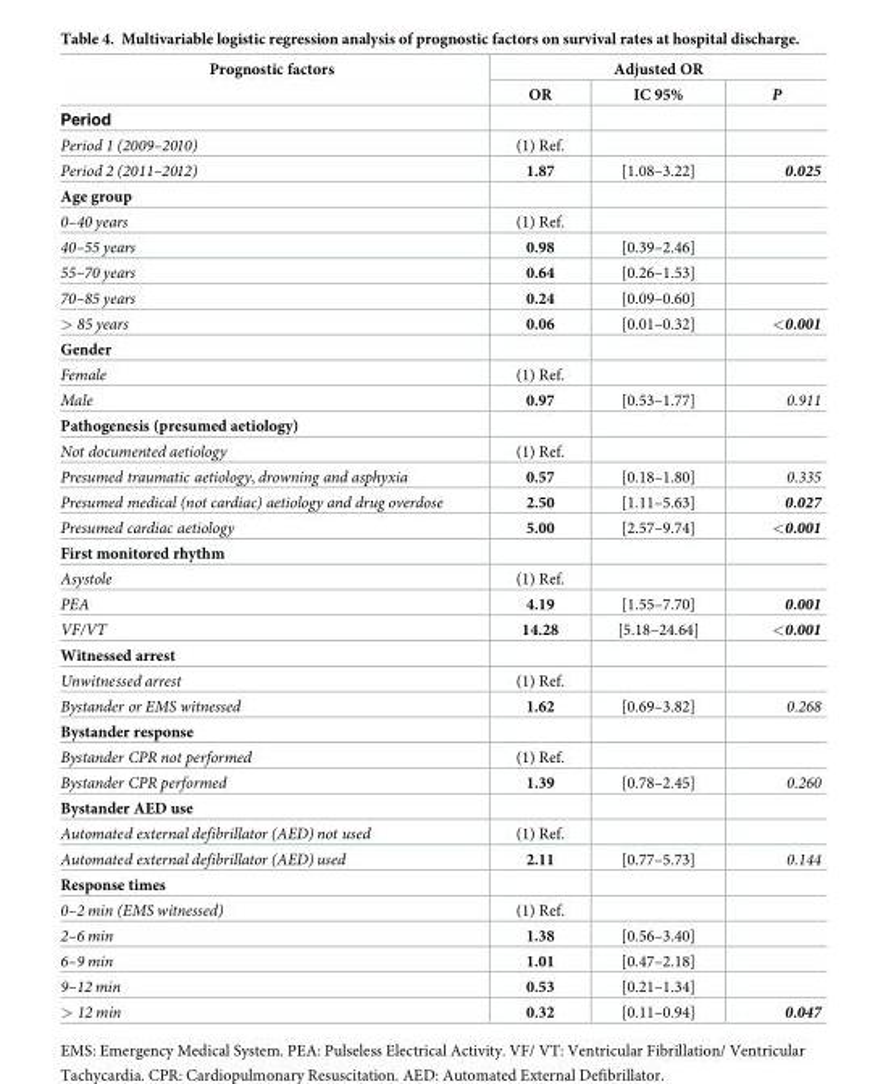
<table><thead><tr><td rowspan="3">Prognostic factors Period</td><td colspan="3">Adjusted OR</td></tr><tr><td rowspan="2">OR</td><td rowspan="2">IC 95%</td><td rowspan="2">P</td></tr><tr></tr></thead><tbody><tr><td>Period 1 (2009–2010)</td><td>(1) Ref.</td><td></td><td></td></tr><tr><td>Period 2 (2011–2012)</td><td>1.87</td><td>[1.08–3.22]</td><td>0.025</td></tr><tr><td colspan="4">Age group</td></tr><tr><td>0–40 years</td><td>(1) Ref.</td><td></td><td></td></tr><tr><td>40–55 years</td><td>0.98</td><td>[0.39–2.46]</td><td></td></tr><tr><td>55–70 years</td><td>0.64</td><td>[0.26–1.53]</td><td></td></tr><tr><td>70–85 years</td><td>0.24</td><td>[0.09–0.60]</td><td></td></tr><tr><td>&gt; 85 years</td><td>0.06</td><td>[0.01–0.32]</td><td>&lt;0.001</td></tr><tr><td colspan="4">Gender</td></tr><tr><td>Female</td><td>(1) Ref.</td><td></td><td></td></tr><tr><td>Male</td><td>0.97</td><td>[0.53–1.77]</td><td>0.911</td></tr><tr><td colspan="4">Pathogenesis (presumed aetiology)</td></tr><tr><td>Not documented aetiology</td><td>(1) Ref.</td><td></td><td></td></tr><tr><td>Presumed traumatic aetiology, drowning and asphyxia</td><td>0.57</td><td>[0.18–1.80]</td><td>0.335</td></tr><tr><td>Presumed medical (not cardiac) aetiology and drug overdose</td><td>2.50</td><td>[1.11–5.63]</td><td>0.027</td></tr><tr><td>Presumed cardiac aetiology</td><td>5.00</td><td>[2.57–9.74]</td><td>&lt;0.001</td></tr><tr><td colspan="4">First monitored rhythm</td></tr><tr><td>Asystole</td><td>(1) Ref.</td><td></td><td></td></tr><tr><td>PEA</td><td>4.19</td><td>[1.55–7.70]</td><td>0.001</td></tr><tr><td>VF/VT</td><td>14.28</td><td>[5.18–24.64]</td><td>&lt;0.001</td></tr><tr><td colspan="4">Witnessed arrest</td></tr><tr><td>Unwitnessed arrest</td><td>(1) Ref.</td><td></td><td></td></tr><tr><td>Bystander or EMS witnessed</td><td>1.62</td><td>[0.69–3.82]</td><td>0.268</td></tr><tr><td colspan="4">Bystander response</td></tr><tr><td>Bystander CPR not performed</td><td>(1) Ref.</td><td></td><td></td></tr><tr><td>Bystander CPR performed</td><td>1.39</td><td>[0.78–2.45]</td><td>0.260</td></tr><tr><td colspan="4">Bystander AED use</td></tr><tr><td>Automated external defibrillator (AED) not used</td><td>(1) Ref.</td><td></td><td></td></tr><tr><td>Automated external defibrillator (AED) used</td><td>2.11</td><td>[0.77–5.73]</td><td>0.144</td></tr><tr><td colspan="4">Response times</td></tr><tr><td>0–2 min (EMS witnessed)</td><td>(1) Ref.</td><td></td><td></td></tr><tr><td>2–6 min</td><td>1.38</td><td>[0.56–3.40]</td><td></td></tr><tr><td>6–9 min</td><td>1.01</td><td>[0.47–2.18]</td><td></td></tr><tr><td>9–12 min</td><td>0.53</td><td>[0.21–1.34]</td><td></td></tr><tr><td>&gt; 12 min</td><td>0.32</td><td>[0.11–0.94]</td><td>0.047</td></tr></tbody></table>